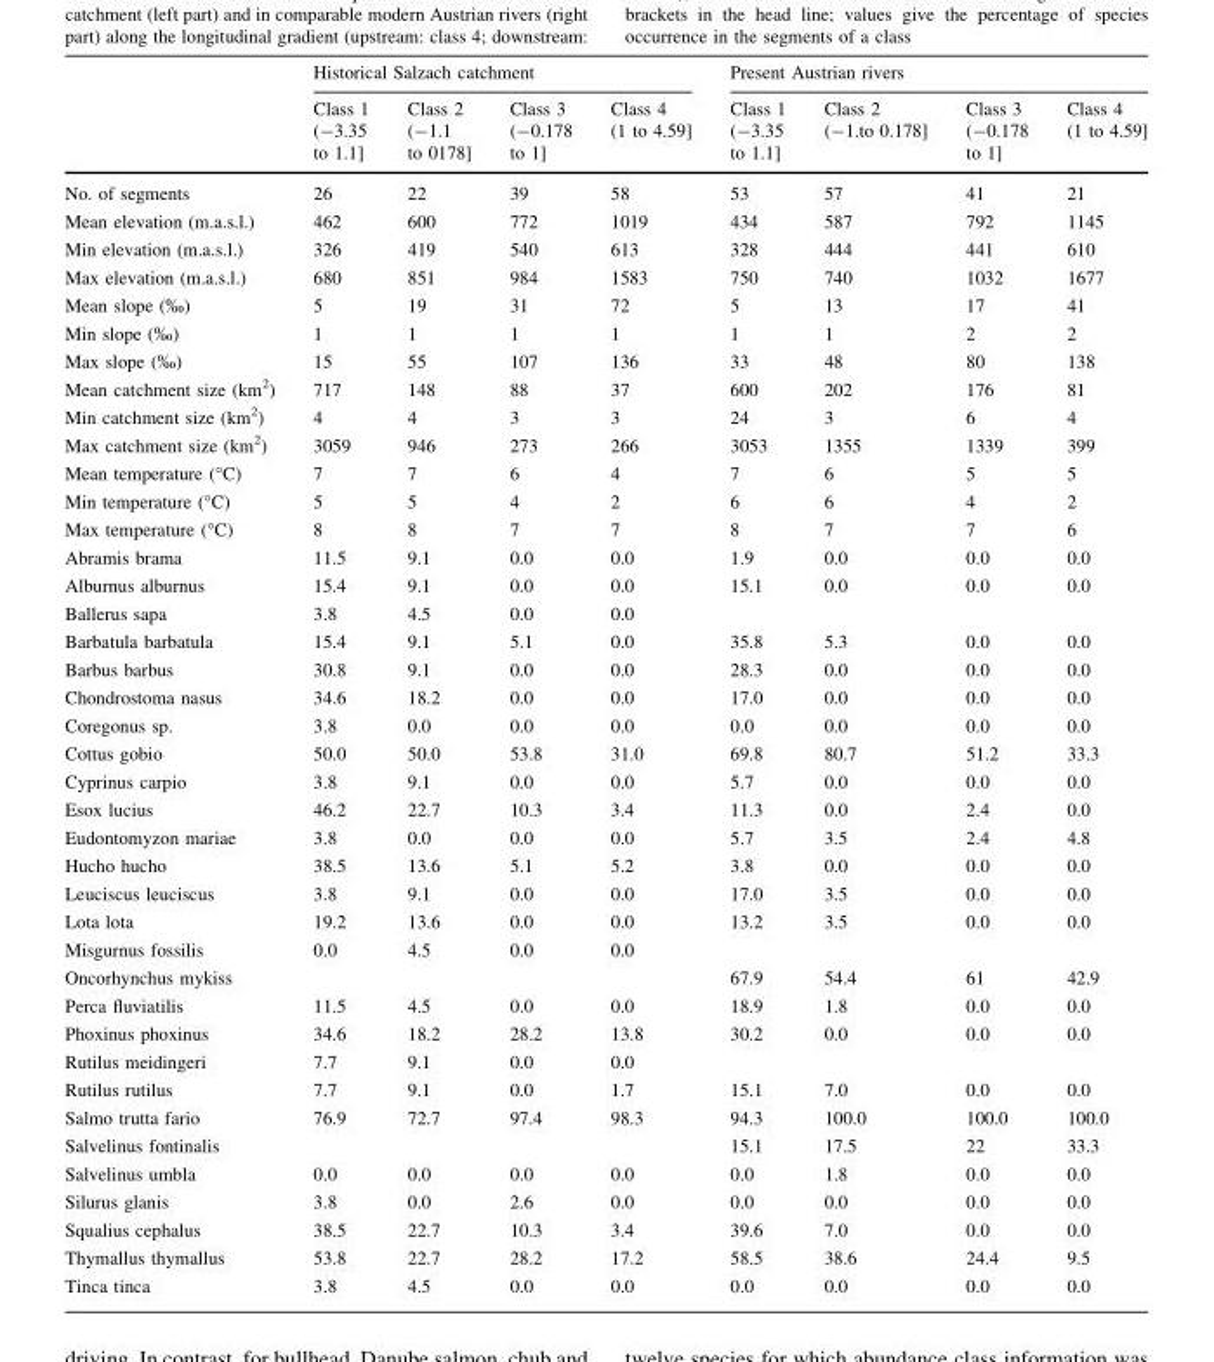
<table><thead><tr><td rowspan="3"></td><td colspan="4">Historical Salzach catchment</td><td colspan="4">Present Austrian rivers</td></tr><tr><td rowspan="2">Class 1 (-3.35 to 1.1]</td><td rowspan="2">Class 2 (-1.1 to 0178]</td><td rowspan="2">Class 3 (-0.178 to 1]</td><td rowspan="2">Class 4 (1 to 4.59]</td><td rowspan="2">Class 1 (-3.35 to 1.1]</td><td rowspan="2">Class 2 (-1.to 0.178]</td><td rowspan="2">Class 3 (-0.178 to 1]</td><td rowspan="2">Class 4 (1 to 4.59]</td></tr><tr></tr></thead><tbody><tr><td>No. of segments</td><td>26</td><td>22</td><td>39</td><td>58</td><td>53</td><td>57</td><td>41</td><td>21</td></tr><tr><td>Mean elevation (m.a.s.l.)</td><td>462</td><td>600</td><td>772</td><td>1019</td><td>434</td><td>587</td><td>792</td><td>1145</td></tr><tr><td>Min elevation (m.a.s.l.)</td><td>326</td><td>419</td><td>540</td><td>613</td><td>328</td><td>444</td><td>441</td><td>610</td></tr><tr><td>Max elevation (m.a.s.l.)</td><td>680</td><td>851</td><td>984</td><td>1583</td><td>750</td><td>740</td><td>1032</td><td>1677</td></tr><tr><td>Mean slope (‰)</td><td>5</td><td>19</td><td>31</td><td>72</td><td>5</td><td>13</td><td>17</td><td>41</td></tr><tr><td>Min slope (‰)</td><td>1</td><td>1</td><td>1</td><td>1</td><td>1</td><td>1</td><td>2</td><td>2</td></tr><tr><td>Max slope (‰)</td><td>15</td><td>55</td><td>107</td><td>136</td><td>33</td><td>48</td><td>80</td><td>138</td></tr><tr><td>Mean catchment size (km<sup>2</sup>)</td><td>717</td><td>148</td><td>88</td><td>37</td><td>600</td><td>202</td><td>176</td><td>81</td></tr><tr><td>Min catchment size (km<sup>2</sup>)</td><td>4</td><td>4</td><td>3</td><td>3</td><td>24</td><td>3</td><td>6</td><td>4</td></tr><tr><td>Max catchment size (km<sup>2</sup>)</td><td>3059</td><td>946</td><td>273</td><td>266</td><td>3053</td><td>1355</td><td>1339</td><td>399</td></tr><tr><td>Mean temperature (°C)</td><td>7</td><td>7</td><td>6</td><td>4</td><td>7</td><td>6</td><td>5</td><td>5</td></tr><tr><td>Min temperature (°C)</td><td>5</td><td>5</td><td>4</td><td>2</td><td>6</td><td>6</td><td>4</td><td>2</td></tr><tr><td>Max temperature (°C)</td><td>8</td><td>8</td><td>7</td><td>7</td><td>8</td><td>7</td><td>7</td><td>6</td></tr><tr><td>Abramis brama</td><td>11.5</td><td>9.1</td><td>0.0</td><td>0.0</td><td>1.9</td><td>0.0</td><td>0.0</td><td>0.0</td></tr><tr><td>Alburnus alburnus</td><td>15.4</td><td>9.1</td><td>0.0</td><td>0.0</td><td>15.1</td><td>0.0</td><td>0.0</td><td>0.0</td></tr><tr><td>Ballerus sapa</td><td>3.8</td><td>4.5</td><td>0.0</td><td>0.0</td><td></td><td></td><td></td><td></td></tr><tr><td>Barbatula barbatula</td><td>15.4</td><td>9.1</td><td>5.1</td><td>0.0</td><td>35.8</td><td>5.3</td><td>0.0</td><td>0.0</td></tr><tr><td>Barbus barbus</td><td>30.8</td><td>9.1</td><td>0.0</td><td>0.0</td><td>28.3</td><td>0.0</td><td>0.0</td><td>0.0</td></tr><tr><td>Chondrostoma nasus</td><td>34.6</td><td>18.2</td><td>0.0</td><td>0.0</td><td>17.0</td><td>0.0</td><td>0.0</td><td>0.0</td></tr><tr><td>Coregonus sp.</td><td>3.8</td><td>0.0</td><td>0.0</td><td>0.0</td><td>0.0</td><td>0.0</td><td>0.0</td><td>0.0</td></tr><tr><td>Cottus gobio</td><td>50.0</td><td>50.0</td><td>53.8</td><td>31.0</td><td>69.8</td><td>80.7</td><td>51.2</td><td>33.3</td></tr><tr><td>Cyprinus carpio</td><td>3.8</td><td>9.1</td><td>0.0</td><td>0.0</td><td>5.7</td><td>0.0</td><td>0.0</td><td>0.0</td></tr><tr><td>Esox lucius</td><td>46.2</td><td>22.7</td><td>10.3</td><td>3.4</td><td>11.3</td><td>0.0</td><td>2.4</td><td>0.0</td></tr><tr><td>Eudontomyzon mariae</td><td>3.8</td><td>0.0</td><td>0.0</td><td>0.0</td><td>5.7</td><td>3.5</td><td>2.4</td><td>4.8</td></tr><tr><td>Hucho hucho</td><td>38.5</td><td>13.6</td><td>5.1</td><td>5.2</td><td>3.8</td><td>0.0</td><td>0.0</td><td>0.0</td></tr><tr><td>Leuciscus leuciscus</td><td>3.8</td><td>9.1</td><td>0.0</td><td>0.0</td><td>17.0</td><td>3.5</td><td>0.0</td><td>0.0</td></tr><tr><td>Lota lota</td><td>19.2</td><td>13.6</td><td>0.0</td><td>0.0</td><td>13.2</td><td>3.5</td><td>0.0</td><td>0.0</td></tr><tr><td>Misgurnus fossilis</td><td>0.0</td><td>4.5</td><td>0.0</td><td>0.0</td><td></td><td></td><td></td><td></td></tr><tr><td>Oncorhynchus mykiss</td><td></td><td></td><td></td><td></td><td>67.9</td><td>54.4</td><td>61</td><td>42.9</td></tr><tr><td>Perca fluviatilis</td><td>11.5</td><td>4.5</td><td>0.0</td><td>0.0</td><td>18.9</td><td>1.8</td><td>0.0</td><td>0.0</td></tr><tr><td>Phoxinus phoxinus</td><td>34.6</td><td>18.2</td><td>28.2</td><td>13.8</td><td>30.2</td><td>0.0</td><td>0.0</td><td>0.0</td></tr><tr><td>Rutilus meidingeri</td><td>7.7</td><td>9.1</td><td>0.0</td><td>0.0</td><td></td><td></td><td></td><td></td></tr><tr><td>Rutilus rutilus</td><td>7.7</td><td>9.1</td><td>0.0</td><td>1.7</td><td>15.1</td><td>7.0</td><td>0.0</td><td>0.0</td></tr><tr><td>Salmo trutta fario</td><td>76.9</td><td>72.7</td><td>97.4</td><td>98.3</td><td>94.3</td><td>100.0</td><td>100.0</td><td>100.0</td></tr><tr><td>Salvelinus fontinalis</td><td></td><td></td><td></td><td></td><td>15.1</td><td>17.5</td><td>22</td><td>33.3</td></tr><tr><td>Salvelinus umbla</td><td>0.0</td><td>0.0</td><td>0.0</td><td>0.0</td><td>0.0</td><td>1.8</td><td>0.0</td><td>0.0</td></tr><tr><td>Silurus glanis</td><td>3.8</td><td>0.0</td><td>2.6</td><td>0.0</td><td>0.0</td><td>0.0</td><td>0.0</td><td>0.0</td></tr><tr><td>Squalius cephalus</td><td>38.5</td><td>22.7</td><td>10.3</td><td>3.4</td><td>39.6</td><td>7.0</td><td>0.0</td><td>0.0</td></tr><tr><td>Thymallus thymallus</td><td>53.8</td><td>22.7</td><td>28.2</td><td>17.2</td><td>58.5</td><td>38.6</td><td>24.4</td><td>9.5</td></tr><tr><td>Tinca tinca</td><td>3.8</td><td>4.5</td><td>0.0</td><td>0.0</td><td>0.0</td><td>0.0</td><td>0.0</td><td>0.0</td></tr></tbody></table>